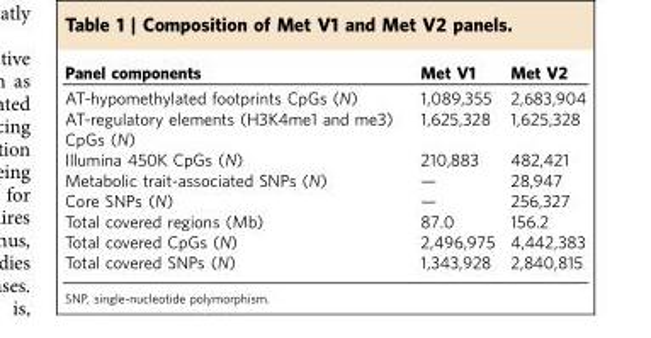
<table><thead><tr><td>Panel components</td><td>Met V1</td><td>Met V2</td></tr></thead><tbody><tr><td>AT-hypomethylated footprints CpGs (N)</td><td>1,089,355</td><td>2,683,904</td></tr><tr><td>AT-regulatory elements (H3K4me1 and me3) CpGs (N)</td><td>1,625,328</td><td>1,625,328</td></tr><tr><td>Illumina 450K CpGs (N)</td><td>210,883</td><td>482,421</td></tr><tr><td>Metabolic trait-associated SNPs (N)</td><td>—</td><td>28,947</td></tr><tr><td>Core SNPs (N)</td><td>—</td><td>256,327</td></tr><tr><td>Total covered regions (Mb)</td><td>87.0</td><td>156.2</td></tr><tr><td>Total covered CpGs (N)</td><td>2,496,975</td><td>4,442,383</td></tr><tr><td>Total covered SNPs (N)</td><td>1,343,928</td><td>2,840,815</td></tr></tbody></table>